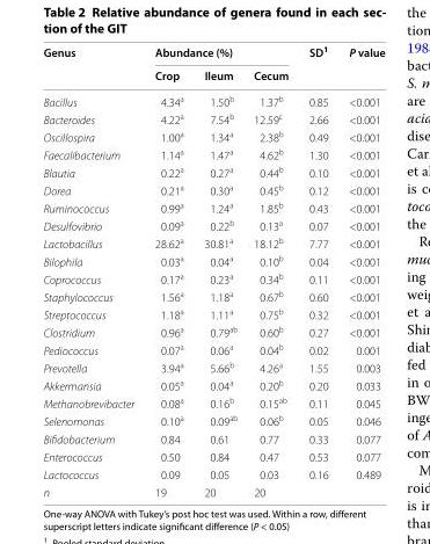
<table><thead><tr><td rowspan="2">Genus</td><td colspan="3">Abundance (%)</td><td rowspan="2">SD<sup>1</sup></td><td rowspan="2">P value</td></tr><tr><td>Crop</td><td>Ileum</td><td>Cecum</td></tr></thead><tbody><tr><td>Bacillus</td><td>4.34<sup>a</sup></td><td>1.50<sup>b</sup></td><td>1.37<sup>b</sup></td><td>0.85</td><td>&lt;0.001</td></tr><tr><td>Bacteroides</td><td>4.22<sup>a</sup></td><td>7.54<sup>b</sup></td><td>12.59<sup>c</sup></td><td>2.66</td><td>&lt;0.001</td></tr><tr><td>Oscillospira</td><td>1.00<sup>a</sup></td><td>1.34<sup>a</sup></td><td>2.38<sup>b</sup></td><td>0.49</td><td>&lt;0.001</td></tr><tr><td>Faecalibacterium</td><td>1.14<sup>a</sup></td><td>1.47<sup>a</sup></td><td>4.62<sup>b</sup></td><td>1.30</td><td>&lt;0.001</td></tr><tr><td>Blautia</td><td>0.22<sup>a</sup></td><td>0.27<sup>a</sup></td><td>0.44<sup>b</sup></td><td>0.10</td><td>&lt;0.001</td></tr><tr><td>Dorea</td><td>0.21<sup>a</sup></td><td>0.30<sup>a</sup></td><td>0.45<sup>b</sup></td><td>0.12</td><td>&lt;0.001</td></tr><tr><td>Ruminococcus</td><td>0.99<sup>a</sup></td><td>1.24<sup>a</sup></td><td>1.85<sup>b</sup></td><td>0.43</td><td>&lt;0.001</td></tr><tr><td>Desulfovibrio</td><td>0.09<sup>a</sup></td><td>0.22<sup>b</sup></td><td>0.13<sup>a</sup></td><td>0.07</td><td>&lt;0.001</td></tr><tr><td>Lactobacillus</td><td>28.62<sup>a</sup></td><td>30.81<sup>a</sup></td><td>18.12<sup>b</sup></td><td>7.77</td><td>&lt;0.001</td></tr><tr><td>Bilophila</td><td>0.03<sup>a</sup></td><td>0.04<sup>a</sup></td><td>0.10<sup>b</sup></td><td>0.04</td><td>&lt;0.001</td></tr><tr><td>Coprococcus</td><td>0.17<sup>a</sup></td><td>0.23<sup>a</sup></td><td>0.34<sup>b</sup></td><td>0.11</td><td>&lt;0.001</td></tr><tr><td>Staphylococcus</td><td>1.56<sup>a</sup></td><td>1.18<sup>a</sup></td><td>0.67<sup>b</sup></td><td>0.60</td><td>&lt;0.001</td></tr><tr><td>Streptococcus</td><td>1.18<sup>a</sup></td><td>1.11<sup>a</sup></td><td>0.75<sup>b</sup></td><td>0.32</td><td>&lt;0.001</td></tr><tr><td>Clostridium</td><td>0.96<sup>a</sup></td><td>0.79<sup>ab</sup></td><td>0.60<sup>b</sup></td><td>0.27</td><td>&lt;0.001</td></tr><tr><td>Pediococcus</td><td>0.07<sup>a</sup></td><td>0.06<sup>a</sup></td><td>0.04<sup>b</sup></td><td>0.02</td><td>0.001</td></tr><tr><td>Prevotella</td><td>3.94<sup>a</sup></td><td>5.66<sup>b</sup></td><td>4.26<sup>a</sup></td><td>1.55</td><td>0.003</td></tr><tr><td>Akkermansia</td><td>0.05<sup>a</sup></td><td>0.04<sup>a</sup></td><td>0.20<sup>b</sup></td><td>0.20</td><td>0.033</td></tr><tr><td>Methanobrevibacter</td><td>0.08<sup>a</sup></td><td>0.16<sup>b</sup></td><td>0.15<sup>ab</sup></td><td>0.11</td><td>0.045</td></tr><tr><td>Selenomonas</td><td>0.10<sup>a</sup></td><td>0.09<sup>ab</sup></td><td>0.06<sup>b</sup></td><td>0.05</td><td>0.046</td></tr><tr><td>Bifidobacterium</td><td>0.84</td><td>0.61</td><td>0.77</td><td>0.33</td><td>0.077</td></tr><tr><td>Enterococcus</td><td>0.50</td><td>0.84</td><td>0.47</td><td>0.53</td><td>0.077</td></tr><tr><td>Lactococcus</td><td>0.09</td><td>0.05</td><td>0.03</td><td>0.16</td><td>0.489</td></tr><tr><td>n</td><td>19</td><td>20</td><td>20</td><td></td><td></td></tr></tbody></table>